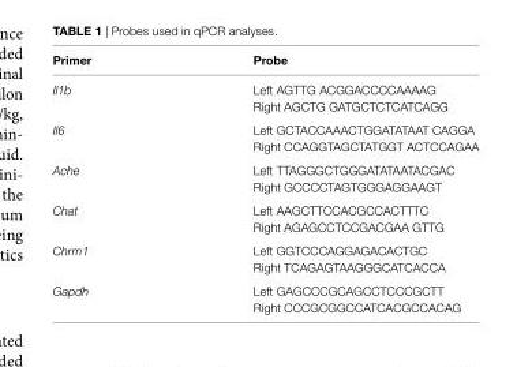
<table><thead><tr><td>Primer</td><td>Probe</td></tr></thead><tbody><tr><td>Il1b</td><td>Left AGTTG ACGGACCCCAAAAG Right AGCTG GATGCTCTCATCAGG</td></tr><tr><td>Il6</td><td>Left GCTACCAAACTGGATATAAT CAGGA Right CCAGGTAGCTATGGT ACTCCAGAA</td></tr><tr><td>Ache</td><td>Left TTAGGGCTGGGATATAATACGAC Right GCCCCTAGTGGGAGGAAGT</td></tr><tr><td>Chat</td><td>Left AAGCTTCCACGCCACTTTC Right AGAGCCTCCGACGAA GTTG</td></tr><tr><td>Chrm1</td><td>Left GGTCCCAGGAGACACTGC Right TCAGAGTAAGGGCATCACCA</td></tr><tr><td>Gapdh</td><td>Left GAGCCCGCAGCCTCCCGCTT Right CCCGCGGCCATCACGCCACAG</td></tr></tbody></table>